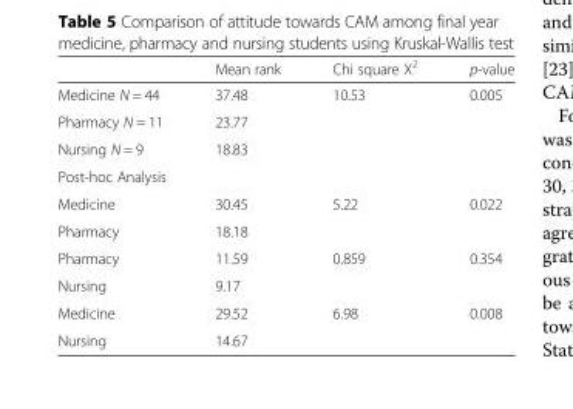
<table><thead><tr><td></td><td>Mean rank</td><td>Chi square X<sup>2</sup></td><td>p-value</td></tr></thead><tbody><tr><td>Medicine N = 44</td><td>37.48</td><td rowspan="3">10.53</td><td rowspan="3">0.005</td></tr><tr><td>Pharmacy N = 11</td><td>23.77</td></tr><tr><td>Nursing N = 9</td><td>18.83</td></tr><tr><td colspan="4">Post-hoc Analysis</td></tr><tr><td>Medicine</td><td>30.45</td><td rowspan="2">5.22</td><td rowspan="2">0.022</td></tr><tr><td>Pharmacy</td><td>18.18</td></tr><tr><td>Pharmacy</td><td>11.59</td><td rowspan="2">0.859</td><td rowspan="2">0.354</td></tr><tr><td>Nursing</td><td>9.17</td></tr><tr><td>Medicine</td><td>29.52</td><td rowspan="2">6.98</td><td rowspan="2">0.008</td></tr><tr><td>Nursing</td><td>14.67</td></tr></tbody></table>